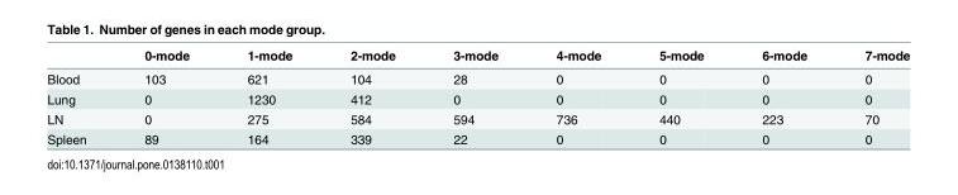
<table><thead><tr><td></td><td>0-mode</td><td>1-mode</td><td>2-mode</td><td>3-mode</td><td>4-mode</td><td>5-mode</td><td>6-mode</td><td>7-mode</td></tr></thead><tbody><tr><td>Blood</td><td>103</td><td>621</td><td>104</td><td>28</td><td>0</td><td>0</td><td>0</td><td>0</td></tr><tr><td>Lung</td><td>0</td><td>1230</td><td>412</td><td>0</td><td>0</td><td>0</td><td>0</td><td>0</td></tr><tr><td>LN</td><td>0</td><td>275</td><td>584</td><td>594</td><td>736</td><td>440</td><td>223</td><td>70</td></tr><tr><td>Spleen</td><td>89</td><td>164</td><td>339</td><td>22</td><td>0</td><td>0</td><td>0</td><td>0</td></tr></tbody></table>